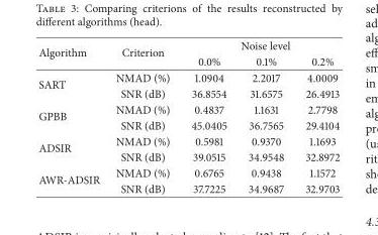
<table><thead><tr><td rowspan="2">Algorithm</td><td rowspan="2">Criterion</td><td colspan="3">Noise level</td></tr><tr><td>0.0%</td><td>0.1%</td><td>0.2%</td></tr></thead><tbody><tr><td rowspan="2">SART</td><td>NMAD (%)</td><td>1.0904</td><td>2.2017</td><td>4.0009</td></tr><tr><td>SNR (dB)</td><td>36.8554</td><td>31.6575</td><td>26.4913</td></tr><tr><td rowspan="2">GPBB</td><td>NMAD (%)</td><td>0.4837</td><td>1.1631</td><td>2.7798</td></tr><tr><td>SNR (dB)</td><td>45.0405</td><td>36.7565</td><td>29.4104</td></tr><tr><td rowspan="2">ADSIR</td><td>NMAD (%)</td><td>0.5981</td><td>0.9370</td><td>1.1693</td></tr><tr><td>SNR (dB)</td><td>39.0515</td><td>34.9548</td><td>32.8972</td></tr><tr><td rowspan="2">AWR-ADSIR</td><td>NMAD (%)</td><td>0.6765</td><td>0.9438</td><td>1.1572</td></tr><tr><td>SNR (dB)</td><td>37.7225</td><td>34.9687</td><td>32.9703</td></tr></tbody></table>